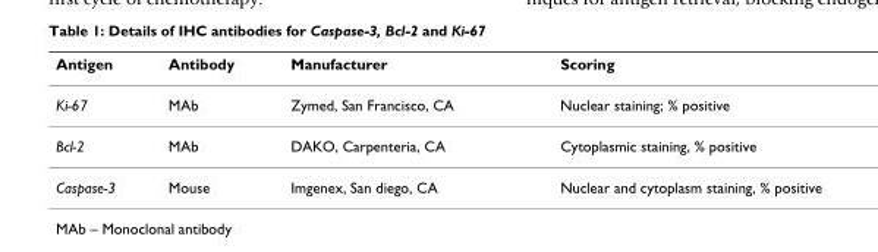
<table><thead><tr><td>Antigen</td><td>Antibody</td><td>Manufacturer</td><td>Scoring</td></tr></thead><tbody><tr><td>Ki-67</td><td>MAb</td><td>Zymed, San Francisco, CA</td><td>Nuclear staining; % positive</td></tr><tr><td>Bcl-2</td><td>MAb</td><td>DAKO, Carpenteria, CA</td><td>Cytoplasmic staining, % positive</td></tr><tr><td>Caspase-3</td><td>Mouse</td><td>Imgenex, San diego, CA</td><td>Nuclear and cytoplasm staining, % positive</td></tr></tbody></table>